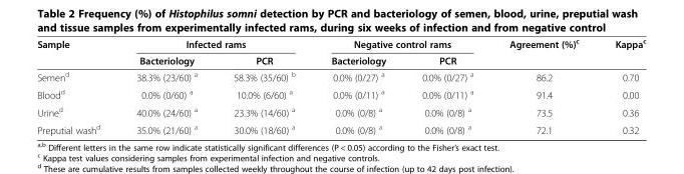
<table><thead><tr><td rowspan="2">Sample</td><td colspan="2">Infected rams</td><td colspan="2">Negative control rams</td><td rowspan="2">Agreement (%)<sup>c</sup></td><td rowspan="2">Kappa<sup>c</sup></td></tr><tr><td>Bacteriology</td><td>PCR</td><td>Bacteriology</td><td>PCR</td></tr></thead><tbody><tr><td>Semen<sup>d</sup></td><td>38.3% (23/60) <sup>a</sup></td><td>58.3% (35/60) <sup>b</sup></td><td>0.0% (0/27) <sup>a</sup></td><td>0.0% (0/27) <sup>a</sup></td><td>86.2</td><td>0.70</td></tr><tr><td>Blood<sup>d</sup></td><td>0.0% (0/60) <sup>a</sup></td><td>10.0% (6/60) <sup>a</sup></td><td>0.0% (0/11) <sup>a</sup></td><td>0.0% (0/11) <sup>a</sup></td><td>91.4</td><td>0.00</td></tr><tr><td>Urine<sup>d</sup></td><td>40.0% (24/60) <sup>a</sup></td><td>23.3% (14/60) <sup>a</sup></td><td>0.0% (0/8) <sup>a</sup></td><td>0.0% (0/8) <sup>a</sup></td><td>73.5</td><td>0.36</td></tr><tr><td>Preputial wash<sup>d</sup></td><td>35.0% (21/60) <sup>a</sup></td><td>30.0% (18/60) <sup>a</sup></td><td>0.0% (0/8) <sup>a</sup></td><td>0.0% (0/8) <sup>a</sup></td><td>72.1</td><td>0.32</td></tr></tbody></table>